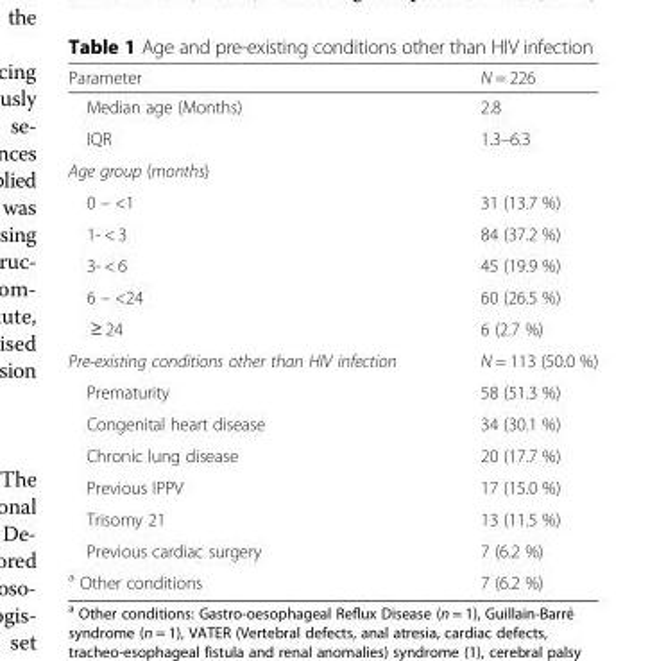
<table><thead><tr><td>Parameter</td><td>N = 226</td></tr></thead><tbody><tr><td>Median age (Months)</td><td>2.8</td></tr><tr><td>IQR</td><td>1.3–6.3</td></tr><tr><td colspan="2">Age group (months)</td></tr><tr><td>0 – &lt;1</td><td>31 (13.7 %)</td></tr><tr><td>1- &lt; 3</td><td>84 (37.2 %)</td></tr><tr><td>3- &lt; 6</td><td>45 (19.9 %)</td></tr><tr><td>6 – &lt;24</td><td>60 (26.5 %)</td></tr><tr><td>≥ 24</td><td>6 (2.7 %)</td></tr><tr><td>Pre-existing conditions other than HIV infection</td><td>N = 113 (50.0 %)</td></tr><tr><td>Prematurity</td><td>58 (51.3 %)</td></tr><tr><td>Congenital heart disease</td><td>34 (30.1 %)</td></tr><tr><td>Chronic lung disease</td><td>20 (17.7 %)</td></tr><tr><td>Previous IPPV</td><td>17 (15.0 %)</td></tr><tr><td>Trisomy 21</td><td>13 (11.5 %)</td></tr><tr><td>Previous cardiac surgery</td><td>7 (6.2 %)</td></tr><tr><td><sup>a</sup> Other conditions</td><td>7 (6.2 %)</td></tr></tbody></table>